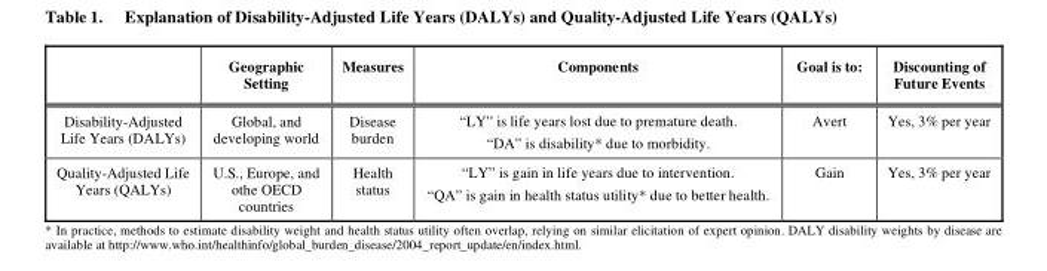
<table><thead><tr><td></td><td>Geographic Setting</td><td>Measures</td><td>Components</td><td>Goal is to:</td><td>Discounting of Future Events</td></tr></thead><tbody><tr><td>Disability-Adjusted Life Years (DALYs)</td><td>Global, and developing world</td><td>Disease burden</td><td>“LY” is life years lost due to premature death. “DA” is disability* due to morbidity.</td><td>Avert</td><td>Yes, 3% per year</td></tr><tr><td>Quality-Adjusted Life Years (QALYs)</td><td>U.S., Europe, and othe OECD countries</td><td>Health status</td><td>“LY” is gain in life years due to intervention. “QA” is gain in health status utility* due to better health.</td><td>Gain</td><td>Yes, 3% per year</td></tr></tbody></table>